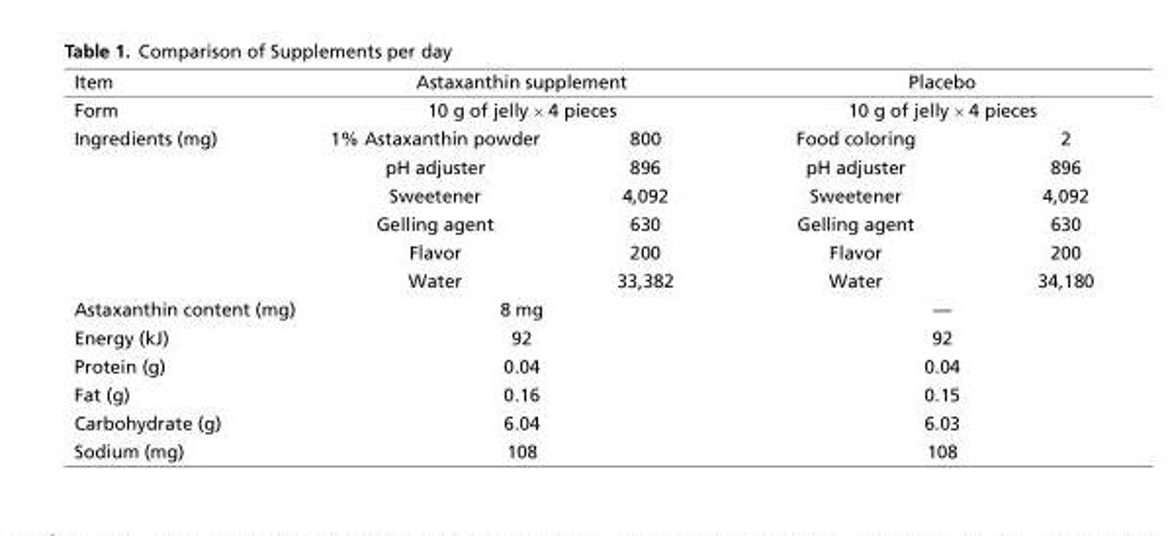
<table><thead><tr><td rowspan="3">Item Form Ingredients (mg)</td><td rowspan="2" colspan="2">Astaxanthin supplement 10 g of jelly × 4 pieces</td><td rowspan="2" colspan="2">Placebo 10 g of jelly × 4 pieces</td></tr><tr></tr><tr><td>1% Astaxanthin powder</td><td>800</td><td>Food coloring</td><td>2</td></tr></thead><tbody><tr><td></td><td>pH adjuster</td><td>896</td><td>pH adjuster</td><td>896</td></tr><tr><td></td><td>Sweetener</td><td>4,092</td><td>Sweetener</td><td>4,092</td></tr><tr><td></td><td>Gelling agent</td><td>630</td><td>Gelling agent</td><td>630</td></tr><tr><td></td><td>Flavor</td><td>200</td><td>Flavor</td><td>200</td></tr><tr><td></td><td>Water</td><td>33,382</td><td>Water</td><td>34,180</td></tr><tr><td>Astaxanthin content (mg)</td><td colspan="2">8 mg</td><td colspan="2">—</td></tr><tr><td>Energy (kJ)</td><td colspan="2">92</td><td colspan="2">92</td></tr><tr><td>Protein (g)</td><td colspan="2">0.04</td><td colspan="2">0.04</td></tr><tr><td>Fat (g)</td><td colspan="2">0.16</td><td colspan="2">0.15</td></tr><tr><td>Carbohydrate (g)</td><td colspan="2">6.04</td><td colspan="2">6.03</td></tr><tr><td>Sodium (mg)</td><td colspan="2">108</td><td colspan="2">108</td></tr></tbody></table>